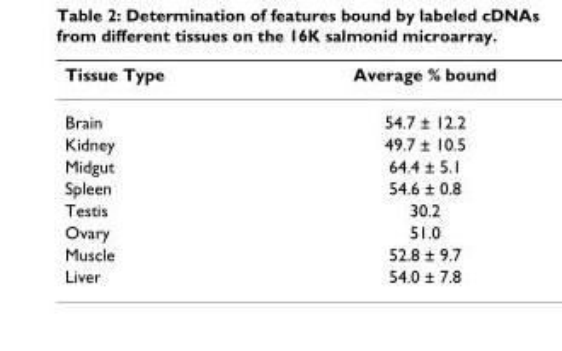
<table><thead><tr><td>Tissue Type</td><td>Average % bound</td></tr></thead><tbody><tr><td>Brain</td><td>54.7 ± 12.2</td></tr><tr><td>Kidney</td><td>49.7 ± 10.5</td></tr><tr><td>Midgut</td><td>64.4 ± 5.1</td></tr><tr><td>Spleen</td><td>54.6 ± 0.8</td></tr><tr><td>Testis</td><td>30.2</td></tr><tr><td>Ovary</td><td>51.0</td></tr><tr><td>Muscle</td><td>52.8 ± 9.7</td></tr><tr><td>Liver</td><td>54.0 ± 7.8</td></tr></tbody></table>